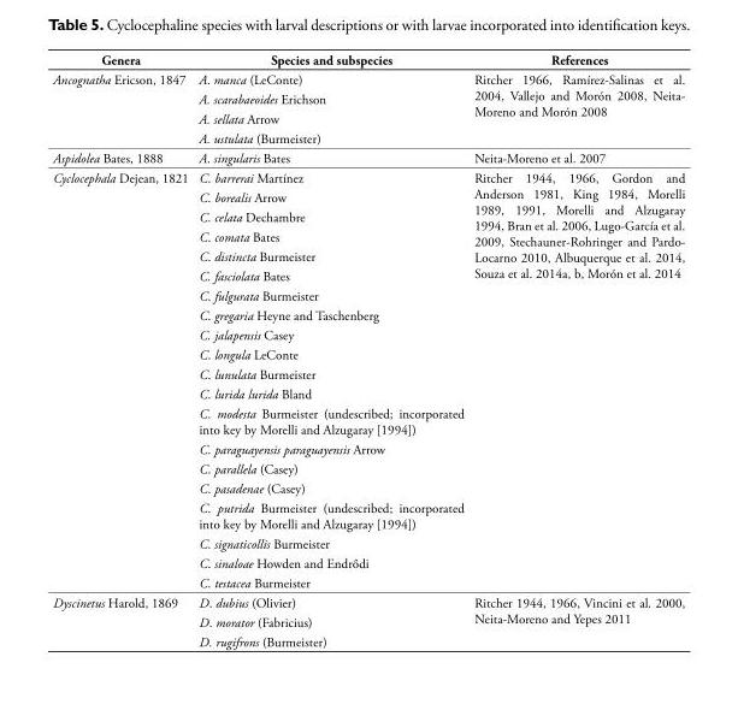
<table><tbody><tr><td>Genera</td><td>Species and subspecies</td><td>References</td></tr><tr><td rowspan="4">Ancognatha Ericson, 1847</td><td>A. manca (LeConte)</td><td rowspan="4">Ritcher 1966, Ramírez-Salinas et al. 2004, Vallejo and Morón 2008, Neita- Moreno and Morón 2008</td></tr><tr><td>A. scarabaeoides Erichson</td></tr><tr><td>A. sellata Arrow</td></tr><tr><td>A. ustulata (Burmeister)</td></tr><tr><td>Aspidolea Bates, 1888</td><td>A. singularis Bates</td><td>Neita-Moreno et al. 2007</td></tr><tr><td rowspan="20">Cyclocephala Dejean, 1821</td><td>C. barrerai Martínez</td><td rowspan="20">Ritcher 1944, 1966, Gordon and Anderson 1981, King 1984, Morelli 1989, 1991, Morelli and Alzugaray 1994, Bran et al. 2006, Lugo-García et al. 2009, Stechauner-Rohringer and Pardo- Locarno 2010, Albuquerque et al. 2014, Souza et al. 2014a, b, Morón et al. 2014</td></tr><tr><td>C. borealis Arrow</td></tr><tr><td>C. celata Dechambre</td></tr><tr><td>C. comata Bates</td></tr><tr><td>C. distincta Burmeister</td></tr><tr><td>C. fasciolata Bates</td></tr><tr><td>C. fulgurata Burmeister</td></tr><tr><td>C. gregaria Heyne and Taschenberg</td></tr><tr><td>C. jalapensis Casey</td></tr><tr><td>C. longula LeConte</td></tr><tr><td>C. lunulata Burmeister</td></tr><tr><td>C. lurida lurida Bland</td></tr><tr><td>C. modesta Burmeister (undescribed; incorporated into key by Morelli and Alzugaray [1994])</td></tr><tr><td>C. paraguayensis paraguayensis Arrow</td></tr><tr><td>C. parallela (Casey)</td></tr><tr><td>C. pasadenae (Casey)</td></tr><tr><td>C. putrida Burmeister (undescribed; incorporated into key by Morelli and Alzugaray [1994])</td></tr><tr><td>C. signaticollis Burmeister</td></tr><tr><td>C. sinaloae Howden and Endrődi</td></tr><tr><td>C. testacea Burmeister</td></tr><tr><td rowspan="3">Dyscinetus Harold, 1869</td><td>D. dubius (Olivier)</td><td rowspan="3">Ritcher 1944, 1966, Vincini et al. 2000, Neita-Moreno and Yepes 2011</td></tr><tr><td>D. morator (Fabricius)</td></tr><tr><td>D. rugifrons (Burmeister)</td></tr></tbody></table>